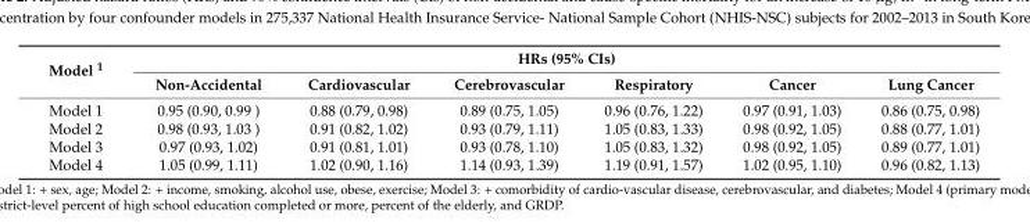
<table><thead><tr><td rowspan="2">Model <sup>1</sup></td><td colspan="6">HRs (95% CIs)</td></tr><tr><td>Non-Accidental</td><td>Cardiovascular</td><td>Cerebrovascular</td><td>Respiratory</td><td>Cancer</td><td>Lung Cancer</td></tr></thead><tbody><tr><td>Model 1</td><td>0.95 (0.90, 0.99 )</td><td>0.88 (0.79, 0.98)</td><td>0.89 (0.75, 1.05)</td><td>0.96 (0.76, 1.22)</td><td>0.97 (0.91, 1.03)</td><td>0.86 (0.75, 0.98)</td></tr><tr><td>Model 2</td><td>0.98 (0.93, 1.03 )</td><td>0.91 (0.82, 1.02)</td><td>0.93 (0.79, 1.11)</td><td>1.05 (0.83, 1.33)</td><td>0.98 (0.92, 1.05)</td><td>0.88 (0.77, 1.01)</td></tr><tr><td>Model 3</td><td>0.97 (0.93, 1.02)</td><td>0.91 (0.81, 1.01)</td><td>0.93 (0.78, 1.10)</td><td>1.05 (0.83, 1.32)</td><td>0.98 (0.92, 1.05)</td><td>0.89 (0.77, 1.01)</td></tr><tr><td>Model 4</td><td>1.05 (0.99, 1.11)</td><td>1.02 (0.90, 1.16)</td><td>1.14 (0.93, 1.39)</td><td>1.19 (0.91, 1.57)</td><td>1.02 (0.95, 1.10)</td><td>0.96 (0.82, 1.13)</td></tr></tbody></table>